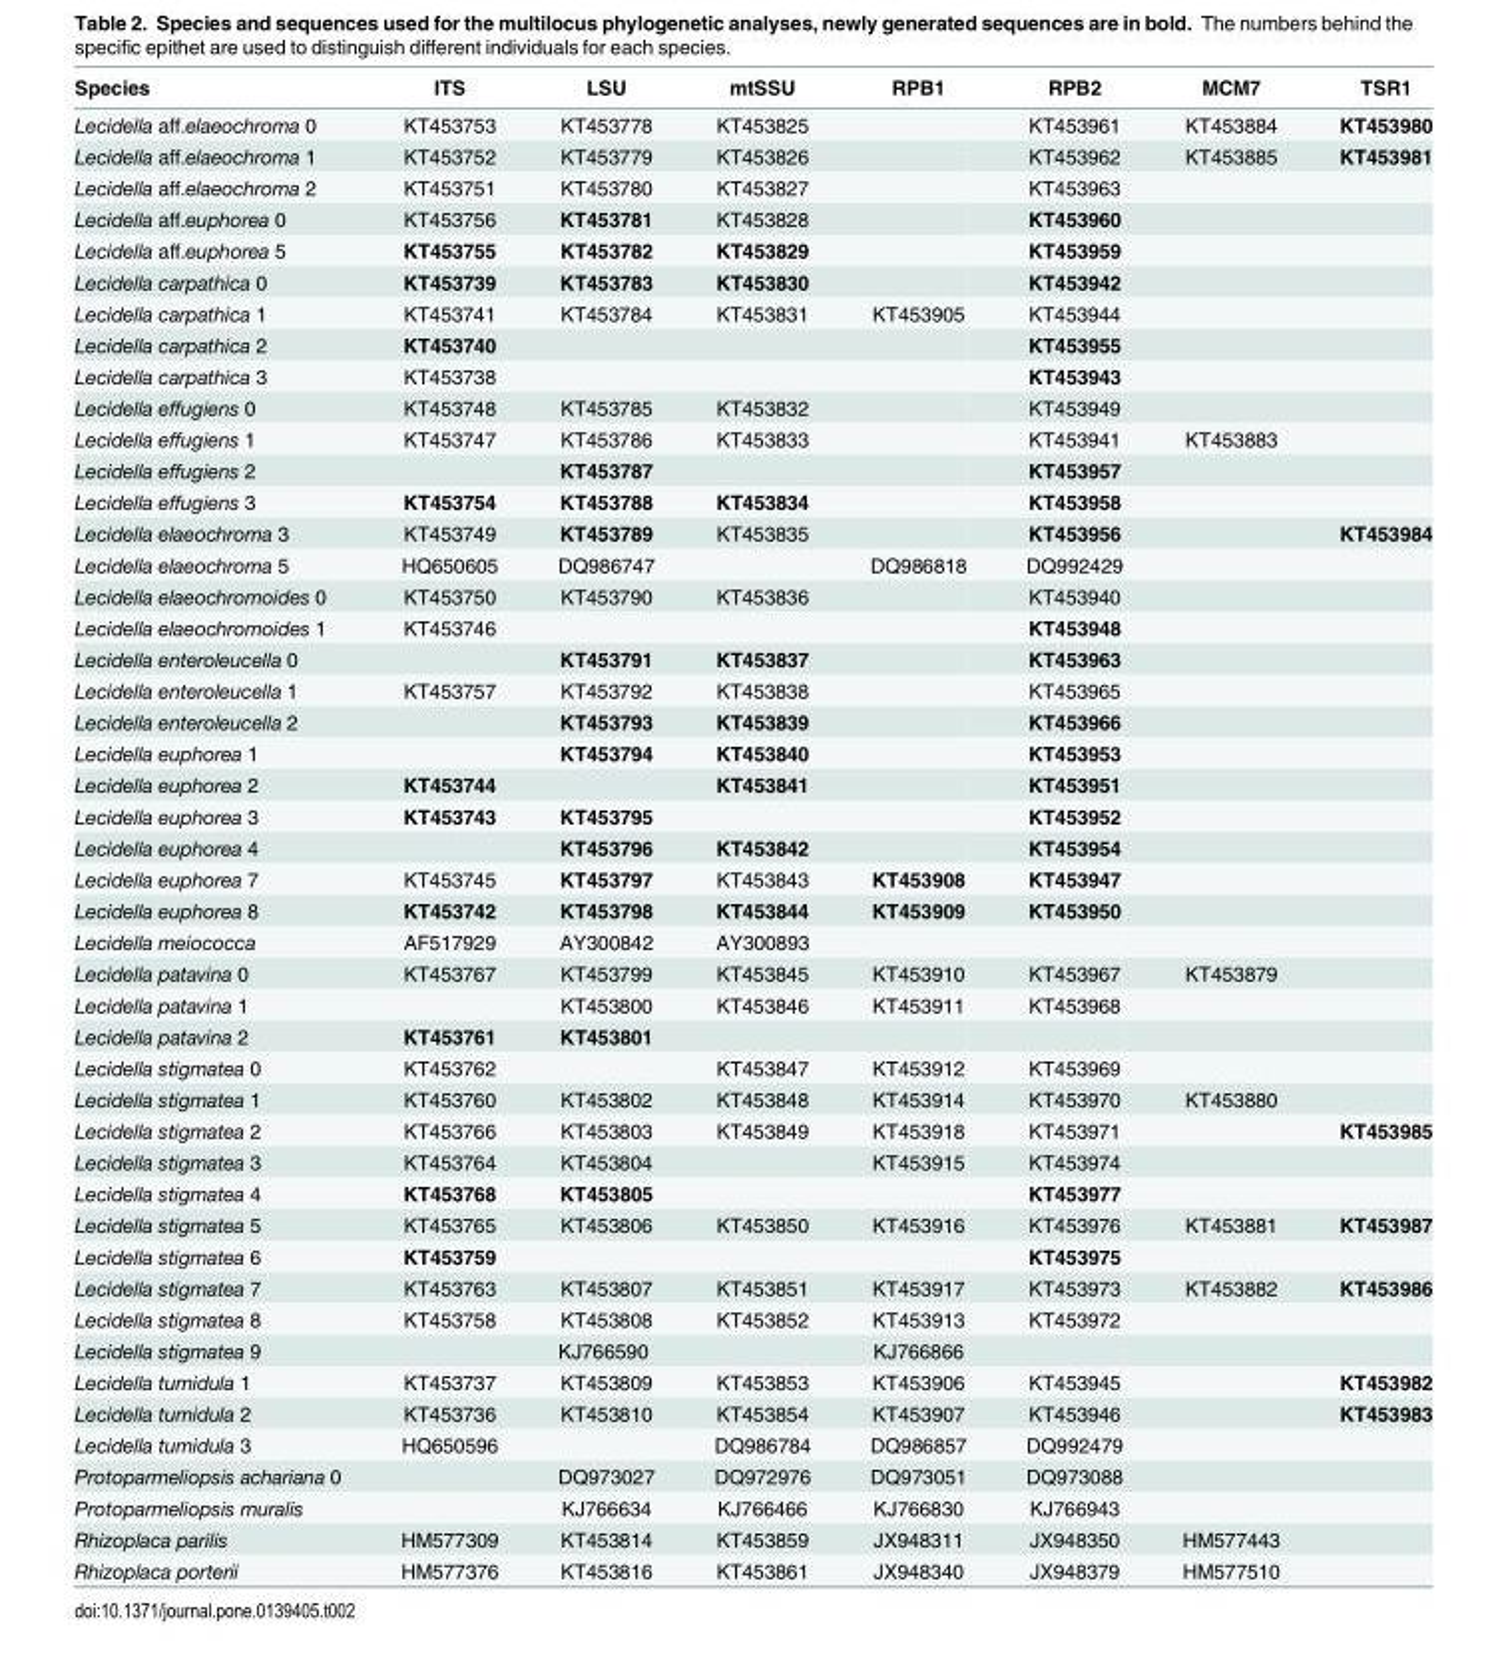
<table><thead><tr><td>Species</td><td>ITS</td><td>LSU</td><td>mtSSU</td><td>RPB1</td><td>RPB2</td><td>MCM7</td><td>TSR1</td></tr></thead><tbody><tr><td>Lecidella aff.elaeochroma 0</td><td>KT453753</td><td>KT453778</td><td>KT453825</td><td></td><td>KT453961</td><td>KT453884</td><td>KT453980</td></tr><tr><td>Lecidella aff.elaeochroma 1</td><td>KT453752</td><td>KT453779</td><td>KT453826</td><td></td><td>KT453962</td><td>KT453885</td><td>KT453981</td></tr><tr><td>Lecidella aff.elaeochroma 2</td><td>KT453751</td><td>KT453780</td><td>KT453827</td><td></td><td>KT453963</td><td></td><td></td></tr><tr><td>Lecidella aff.euphorea 0</td><td>KT453756</td><td>KT453781</td><td>KT453828</td><td></td><td>KT453960</td><td></td><td></td></tr><tr><td>Lecidella aff.euphorea 5</td><td>KT453755</td><td>KT453782</td><td>KT453829</td><td></td><td>KT453959</td><td></td><td></td></tr><tr><td>Lecidella carpathica 0</td><td>KT453739</td><td>KT453783</td><td>KT453830</td><td></td><td>KT453942</td><td></td><td></td></tr><tr><td>Lecidella carpathica 1</td><td>KT453741</td><td>KT453784</td><td>KT453831</td><td>KT453905</td><td>KT453944</td><td></td><td></td></tr><tr><td>Lecidella carpathica 2</td><td>KT453740</td><td></td><td></td><td></td><td>KT453955</td><td></td><td></td></tr><tr><td>Lecidella carpathica 3</td><td>KT453738</td><td></td><td></td><td></td><td>KT453943</td><td></td><td></td></tr><tr><td>Lecidella effugiens 0</td><td>KT453748</td><td>KT453785</td><td>KT453832</td><td></td><td>KT453949</td><td></td><td></td></tr><tr><td>Lecidella effugiens 1</td><td>KT453747</td><td>KT453786</td><td>KT453833</td><td></td><td>KT453941</td><td>KT453883</td><td></td></tr><tr><td>Lecidella effugiens 2</td><td></td><td>KT453787</td><td></td><td></td><td>KT453957</td><td></td><td></td></tr><tr><td>Lecidella effugiens 3</td><td>KT453754</td><td>KT453788</td><td>KT453834</td><td></td><td>KT453958</td><td></td><td></td></tr><tr><td>Lecidella elaeochroma 3</td><td>KT453749</td><td>KT453789</td><td>KT453835</td><td></td><td>KT453956</td><td></td><td>KT453984</td></tr><tr><td>Lecidella elaeochroma 5</td><td>HQ650605</td><td>DQ986747</td><td></td><td>DQ986818</td><td>DQ992429</td><td></td><td></td></tr><tr><td>Lecidella elaeochromoides 0</td><td>KT453750</td><td>KT453790</td><td>KT453836</td><td></td><td>KT453940</td><td></td><td></td></tr><tr><td>Lecidella elaeochromoides 1</td><td>KT453746</td><td></td><td></td><td></td><td>KT453948</td><td></td><td></td></tr><tr><td>Lecidella enteroleucella 0</td><td></td><td>KT453791</td><td>KT453837</td><td></td><td>KT453963</td><td></td><td></td></tr><tr><td>Lecidella enteroleucella 1</td><td>KT453757</td><td>KT453792</td><td>KT453838</td><td></td><td>KT453965</td><td></td><td></td></tr><tr><td>Lecidella enteroleucella 2</td><td></td><td>KT453793</td><td>KT453839</td><td></td><td>KT453966</td><td></td><td></td></tr><tr><td>Lecidella euphorea 1</td><td></td><td>KT453794</td><td>KT453840</td><td></td><td>KT453953</td><td></td><td></td></tr><tr><td>Lecidella euphorea 2</td><td>KT453744</td><td></td><td>KT453841</td><td></td><td>KT453951</td><td></td><td></td></tr><tr><td>Lecidella euphorea 3</td><td>KT453743</td><td>KT453795</td><td></td><td></td><td>KT453952</td><td></td><td></td></tr><tr><td>Lecidella euphorea 4</td><td></td><td>KT453796</td><td>KT453842</td><td></td><td>KT453954</td><td></td><td></td></tr><tr><td>Lecidella euphorea 7</td><td>KT453745</td><td>KT453797</td><td>KT453843</td><td>KT453908</td><td>KT453947</td><td></td><td></td></tr><tr><td>Lecidella euphorea 8</td><td>KT453742</td><td>KT453798</td><td>KT453844</td><td>KT453909</td><td>KT453950</td><td></td><td></td></tr><tr><td>Lecidella meiococca</td><td>AF517929</td><td>AY300842</td><td>AY300893</td><td></td><td></td><td></td><td></td></tr><tr><td>Lecidella patavina 0</td><td>KT453767</td><td>KT453799</td><td>KT453845</td><td>KT453910</td><td>KT453967</td><td>KT453879</td><td></td></tr><tr><td>Lecidella patavina 1</td><td></td><td>KT453800</td><td>KT453846</td><td>KT453911</td><td>KT453968</td><td></td><td></td></tr><tr><td>Lecidella patavina 2</td><td>KT453761</td><td>KT453801</td><td></td><td></td><td></td><td></td><td></td></tr><tr><td>Lecidella stigmatea 0</td><td>KT453762</td><td></td><td>KT453847</td><td>KT453912</td><td>KT453969</td><td></td><td></td></tr><tr><td>Lecidella stigmatea 1</td><td>KT453760</td><td>KT453802</td><td>KT453848</td><td>KT453914</td><td>KT453970</td><td>KT453880</td><td></td></tr><tr><td>Lecidella stigmatea 2</td><td>KT453766</td><td>KT453803</td><td>KT453849</td><td>KT453918</td><td>KT453971</td><td></td><td>KT453985</td></tr><tr><td>Lecidella stigmatea 3</td><td>KT453764</td><td>KT453804</td><td></td><td>KT453915</td><td>KT453974</td><td></td><td></td></tr><tr><td>Lecidella stigmatea 4</td><td>KT453768</td><td>KT453805</td><td></td><td></td><td>KT453977</td><td></td><td></td></tr><tr><td>Lecidella stigmatea 5</td><td>KT453765</td><td>KT453806</td><td>KT453850</td><td>KT453916</td><td>KT453976</td><td>KT453881</td><td>KT453987</td></tr><tr><td>Lecidella stigmatea 6</td><td>KT453759</td><td></td><td></td><td></td><td>KT453975</td><td></td><td></td></tr><tr><td>Lecidella stigmatea 7</td><td>KT453763</td><td>KT453807</td><td>KT453851</td><td>KT453917</td><td>KT453973</td><td>KT453882</td><td>KT453986</td></tr><tr><td>Lecidella stigmatea 8</td><td>KT453758</td><td>KT453808</td><td>KT453852</td><td>KT453913</td><td>KT453972</td><td></td><td></td></tr><tr><td>Lecidella stigmatea 9</td><td></td><td>KJ766590</td><td></td><td>KJ766866</td><td></td><td></td><td></td></tr><tr><td>Lecidella tumidula 1</td><td>KT453737</td><td>KT453809</td><td>KT453853</td><td>KT453906</td><td>KT453945</td><td></td><td>KT453982</td></tr><tr><td>Lecidella tumidula 2</td><td>KT453736</td><td>KT453810</td><td>KT453854</td><td>KT453907</td><td>KT453946</td><td></td><td>KT453983</td></tr><tr><td>Lecidella tumidula 3</td><td>HQ650596</td><td></td><td>DQ986784</td><td>DQ986857</td><td>DQ992479</td><td></td><td></td></tr><tr><td>Protoparmeliopsis achariana 0</td><td></td><td>DQ973027</td><td>DQ972976</td><td>DQ973051</td><td>DQ973088</td><td></td><td></td></tr><tr><td>Protoparmeliopsis muralis</td><td></td><td>KJ766634</td><td>KJ766466</td><td>KJ766830</td><td>KJ766943</td><td></td><td></td></tr><tr><td>Rhizoplaca parilis</td><td>HM577309</td><td>KT453814</td><td>KT453859</td><td>JX948311</td><td>JX948350</td><td>HM577443</td><td></td></tr><tr><td>Rhizoplaca porterii</td><td>HM577376</td><td>KT453816</td><td>KT453861</td><td>JX948340</td><td>JX948379</td><td>HM577510</td><td></td></tr></tbody></table>